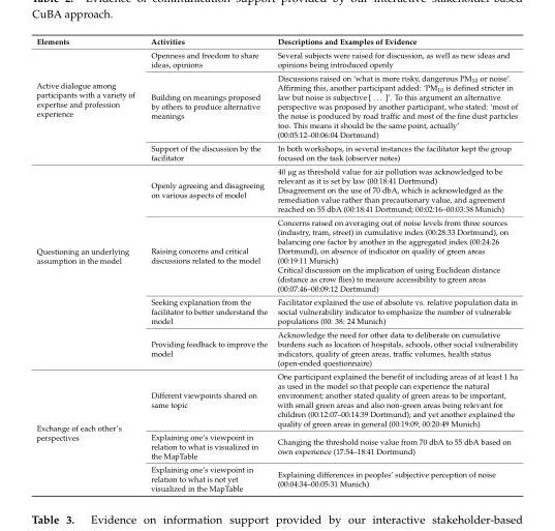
<table><thead><tr><td>Elements</td><td>Activities</td><td>Descriptions and Examples of Evidence</td></tr></thead><tbody><tr><td rowspan="3">Active dialogue among participants with a variety of expertise and profession experience</td><td>Openness and freedom to share ideas, opinions</td><td>Several subjects were raised for discussion, as well as new ideas and opinions being introduced openly</td></tr><tr><td>Building on meanings proposed by others to produce alternative meanings</td><td>Discussions raised on ‘what is more risky, dangerous PM<sub>10</sub> or noise’. Affirming this, another participant added: ‘PM<sub>10</sub> is defined stricter in law but noise is subjective [ . . . ]’. To this argument an alternative perspective was proposed by another participant, who stated: ‘most of the noise is produced by road traffic and most of the fine dust particles too. This means it should be the same point, actually’ (00:05:12–00:06:04 Dortmund)</td></tr><tr><td>Support of the discussion by the facilitator</td><td>In both workshops, in several instances the facilitator kept the group focused on the task (observer notes)</td></tr><tr><td rowspan="4">Questioning an underlying assumption in the model</td><td>Openly agreeing and disagreeing on various aspects of model</td><td>40 µg as threshold value for air pollution was acknowledged to be relevant as it is set by law (00:18:41 Dortmund) Disagreement on the use of 70 dbA, which is acknowledged as the remediation value rather than precautionary value, and agreement reached on 55 dbA (00:18:41 Dortmund; 00:02:16–00:03:38 Munich)</td></tr><tr><td>Raising concerns and critical discussions related to the model</td><td>Concerns raised on averaging out of noise levels from three sources (industry, tram, street) in cumulative index (00:28:33 Dortmund), on balancing one factor by another in the aggregated index (00:24:26 Dortmund), on absence of indicator on quality of green areas (00:19:11 Munich) Critical discussion on the implication of using Euclidean distance (distance as crow flies) to measure accessibility to green areas (00:07:46–00:09:12 Dortmund)</td></tr><tr><td>Seeking explanation from the facilitator to better understand the model</td><td>Facilitator explained the use of absolute vs. relative population data in social vulnerability indicator to emphasize the number of vulnerable populations (00: 38: 24 Munich)</td></tr><tr><td>Providing feedback to improve the model</td><td>Acknowledge the need for other data to deliberate on cumulative burdens such as location of hospitals, schools, other social vulnerability indicators, quality of green areas, traffic volumes, health status (open-ended questionnaire)</td></tr><tr><td rowspan="3">Exchange of each other’s perspectives</td><td>Different viewpoints shared on same topic</td><td>One participant explained the benefit of including areas of at least 1 ha as used in the model so that people can experience the natural environment; another stated quality of green areas to be important, with small green areas and also non-green areas being relevant for children (00:12:07–00:14:39 Dortmund); and yet another explained the quality of green areas in general (00:19:09; 00:20:49 Munich)</td></tr><tr><td>Explaining one’s viewpoint in relation to what is visualized in the MapTable</td><td>Changing the threshold noise value from 70 dbA to 55 dbA based on own experience (17:54–18:41 Dortmund)</td></tr><tr><td>Explaining one’s viewpoint in relation to what is not yet visualized in the MapTable</td><td>Explaining differences in peoples’ subjective perception of noise (00:04:34–00:05:31 Munich)</td></tr></tbody></table>